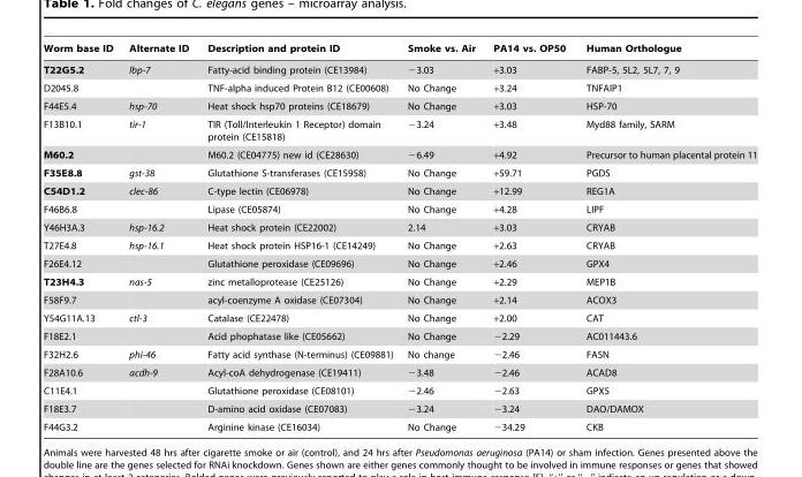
<table><thead><tr><td>Worm base ID</td><td>Alternate ID</td><td>Description and protein ID</td><td>Smoke vs. Air</td><td>PA14 vs. OP50</td><td>Human Orthologue</td></tr></thead><tbody><tr><td>T22G5.2</td><td>lbp-7</td><td>Fatty-acid binding protein (CE13984)</td><td>−3.03</td><td>+3.03</td><td>FABP-5, 5L2, 5L7, 7, 9</td></tr><tr><td>D2045.8</td><td></td><td>TNF-alpha induced Protein B12 (CE00608)</td><td>No Change</td><td>+3.24</td><td>TNFAIP1</td></tr><tr><td>F44E5.4</td><td>hsp-70</td><td>Heat shock hsp70 proteins (CE18679)</td><td>No Change</td><td>+3.03</td><td>HSP-70</td></tr><tr><td>F13B10.1</td><td>tir-1</td><td>TIR (Toll/Interleukin 1 Receptor) domain protein (CE15818)</td><td>−3.24</td><td>+3.48</td><td>Myd88 family, SARM</td></tr><tr><td>M60.2</td><td></td><td>M60.2 (CE04775) new id (CE28630)</td><td>−6.49</td><td>+4.92</td><td>Precursor to human placental protein 11</td></tr><tr><td>F35E8.8</td><td>gst-38</td><td>Glutathione S-transferases (CE15958)</td><td>No Change</td><td>+59.71</td><td>PGDS</td></tr><tr><td>C54D1.2</td><td>clec-86</td><td>C-type lectin (CE06978)</td><td>No Change</td><td>+12.99</td><td>REG1A</td></tr><tr><td>F46B6.8</td><td></td><td>Lipase (CE05874)</td><td>No Change</td><td>+4.28</td><td>LIPF</td></tr><tr><td>Y46H3A.3</td><td>hsp-16.2</td><td>Heat shock protein (CE22002)</td><td>2.14</td><td>+3.03</td><td>CRYAB</td></tr><tr><td>T27E4.8</td><td>hsp-16.1</td><td>Heat shock protein HSP16-1 (CE14249)</td><td>No Change</td><td>+2.63</td><td>CRYAB</td></tr><tr><td>F26E4.12</td><td></td><td>Glutathione peroxidase (CE09696)</td><td>No Change</td><td>+2.46</td><td>GPX4</td></tr><tr><td>T23H4.3</td><td>nas-5</td><td>zinc metalloprotease (CE25126)</td><td>No Change</td><td>+2.29</td><td>MEP1B</td></tr><tr><td>F58F9.7</td><td></td><td>acyl-coenzyme A oxidase (CE07304)</td><td>No Change</td><td>+2.14</td><td>ACOX3</td></tr><tr><td>Y54G11A.13</td><td>ctl-3</td><td>Catalase (CE22478)</td><td>No Change</td><td>+2.00</td><td>CAT</td></tr><tr><td>F18E2.1</td><td></td><td>Acid phophatase like (CE05662)</td><td>No Change</td><td>−2.29</td><td>AC011443.6</td></tr><tr><td>F32H2.6</td><td>phi-46</td><td>Fatty acid synthase (N-terminus) (CE09881)</td><td>No change</td><td>−2.46</td><td>FASN</td></tr><tr><td>F28A10.6</td><td>acdh-9</td><td>Acyl-coA dehydrogenase (CE19411)</td><td>−3.48</td><td>−2.46</td><td>ACAD8</td></tr><tr><td>C11E4.1</td><td></td><td>Glutathione peroxidase (CE08101)</td><td>−2.46</td><td>−2.63</td><td>GPX5</td></tr><tr><td>F18E3.7</td><td></td><td>D-amino acid oxidase (CE07083)</td><td>−3.24</td><td>−3.24</td><td>DAO/DAMOX</td></tr><tr><td>F44G3.2</td><td></td><td>Arginine kinase (CE16034)</td><td>No Change</td><td>−34.29</td><td>CKB</td></tr></tbody></table>